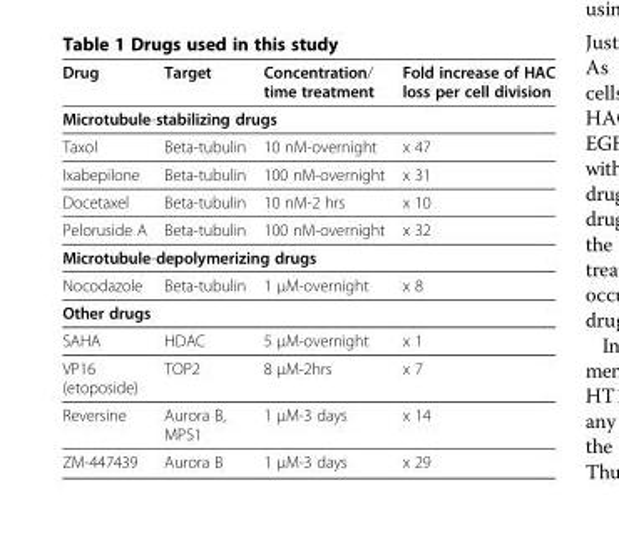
<table><thead><tr><td>Drug</td><td>Target</td><td>Concentration/ time treatment</td><td>Fold increase of HAC loss per cell division</td></tr></thead><tbody><tr><td colspan="4">Microtubule-stabilizing drugs</td></tr><tr><td>Taxol</td><td>Beta-tubulin</td><td>10 nM-overnight</td><td>x 47</td></tr><tr><td>Ixabepilone</td><td>Beta-tubulin</td><td>100 nM-overnight</td><td>x 31</td></tr><tr><td>Docetaxel</td><td>Beta-tubulin</td><td>10 nM-2 hrs</td><td>x 10</td></tr><tr><td>Peloruside A</td><td>Beta-tubulin</td><td>100 nM-overnight</td><td>x 32</td></tr><tr><td colspan="4">Microtubule-depolymerizing drugs</td></tr><tr><td>Nocodazole</td><td>Beta-tubulin</td><td>1 μM-overnight</td><td>x 8</td></tr><tr><td colspan="4">Other drugs</td></tr><tr><td>SAHA</td><td>HDAC</td><td>5 μM-overnight</td><td>x 1</td></tr><tr><td>VP16 (etoposide)</td><td>TOP2</td><td>8 μM-2hrs</td><td>x 7</td></tr><tr><td>Reversine</td><td>Aurora B, MPS1</td><td>1 μM-3 days</td><td>x 14</td></tr><tr><td>ZM-447439</td><td>Aurora B</td><td>1 μM-3 days</td><td>x 29</td></tr></tbody></table>